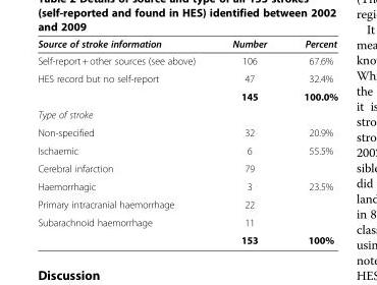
<table><thead><tr><td>Source of stroke information</td><td>Number</td><td>Percent</td></tr></thead><tbody><tr><td>Self-report + other sources (see above)</td><td>106</td><td>67.6%</td></tr><tr><td rowspan="2">HES record but no self-report</td><td>47</td><td>32.4%</td></tr><tr><td>145</td><td>100.0%</td></tr><tr><td colspan="3">Type of stroke</td></tr><tr><td>Non-specified</td><td>32</td><td>20.9%</td></tr><tr><td>Ischaemic</td><td>6</td><td rowspan="2">55.5%</td></tr><tr><td>Cerebral infarction</td><td>79</td></tr><tr><td>Haemorrhagic</td><td>3</td><td rowspan="3">23.5%</td></tr><tr><td>Primary intracranial haemorrhage</td><td>22</td></tr><tr><td rowspan="2">Subarachnoid haemorrhage</td><td>11</td></tr><tr><td>153</td><td>100%</td></tr></tbody></table>